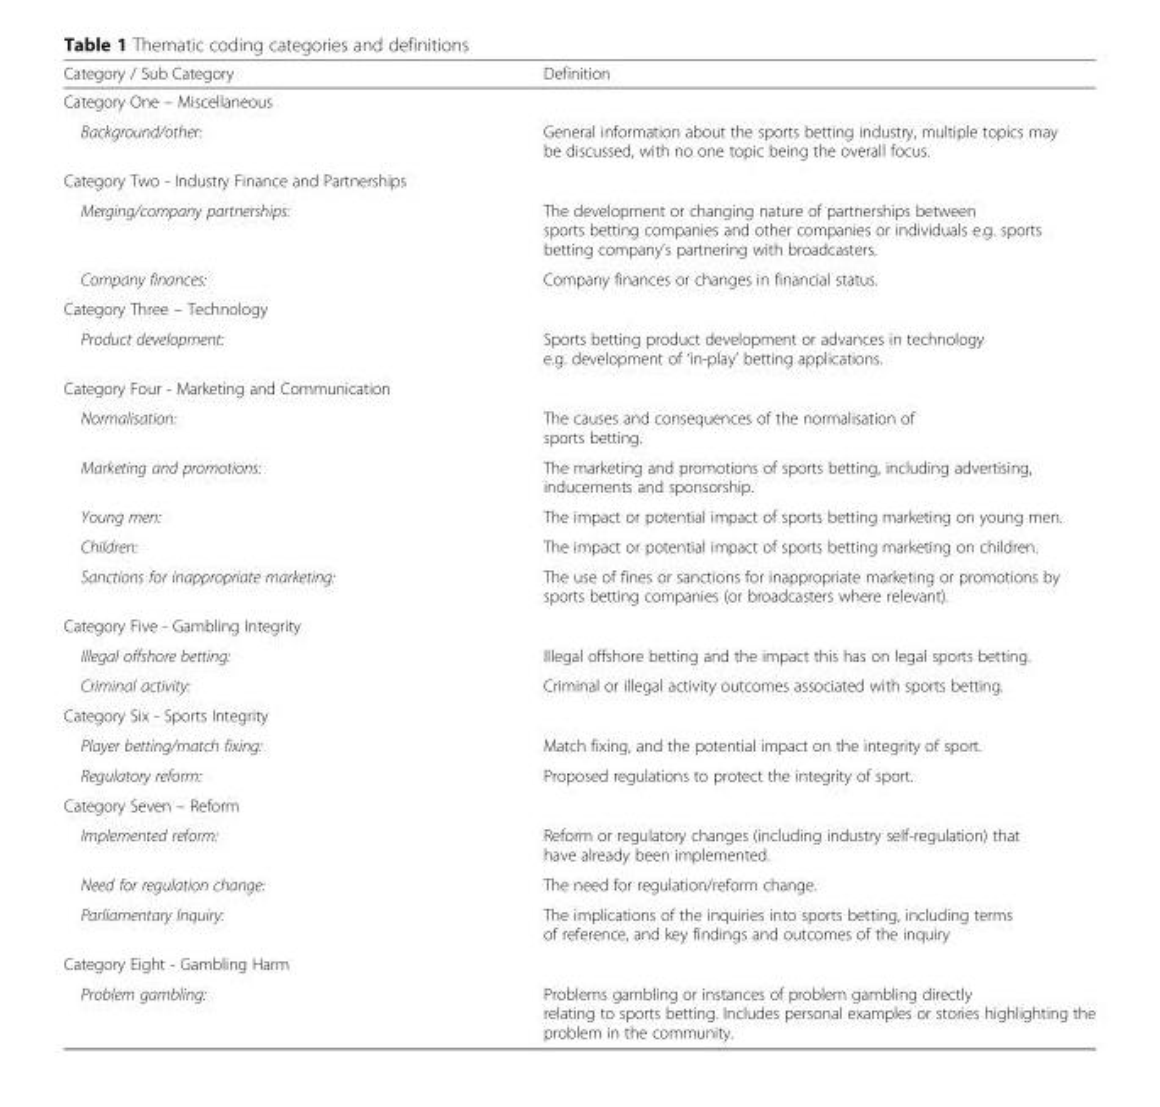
<table><thead><tr><td>Category / Sub Category</td><td>Definition</td></tr></thead><tbody><tr><td colspan="2">Category One – Miscellaneous</td></tr><tr><td>Background/other:</td><td>General information about the sports betting industry, multiple topics may be discussed, with no one topic being the overall focus.</td></tr><tr><td colspan="2">Category Two - Industry Finance and Partnerships</td></tr><tr><td>Merging/company partnerships:</td><td>The development or changing nature of partnerships between sports betting companies and other companies or individuals e.g. sports betting company’s partnering with broadcasters.</td></tr><tr><td>Company finances:</td><td>Company finances or changes in financial status.</td></tr><tr><td colspan="2">Category Three – Technology</td></tr><tr><td>Product development:</td><td>Sports betting product development or advances in technology e.g. development of ‘in-play’ betting applications.</td></tr><tr><td colspan="2">Category Four - Marketing and Communication</td></tr><tr><td>Normalisation:</td><td>The causes and consequences of the normalisation of sports betting.</td></tr><tr><td>Marketing and promotions:</td><td>The marketing and promotions of sports betting, including advertising, inducements and sponsorship.</td></tr><tr><td>Young men:</td><td>The impact or potential impact of sports betting marketing on young men.</td></tr><tr><td>Children:</td><td>The impact or potential impact of sports betting marketing on children.</td></tr><tr><td>Sanctions for inappropriate marketing:</td><td>The use of fines or sanctions for inappropriate marketing or promotions by sports betting companies (or broadcasters where relevant).</td></tr><tr><td colspan="2">Category Five - Gambling Integrity</td></tr><tr><td>Illegal offshore betting:</td><td>Illegal offshore betting and the impact this has on legal sports betting.</td></tr><tr><td>Criminal activity:</td><td>Criminal or illegal activity outcomes associated with sports betting.</td></tr><tr><td colspan="2">Category Six - Sports Integrity</td></tr><tr><td>Player betting/match fixing:</td><td>Match fixing, and the potential impact on the integrity of sport.</td></tr><tr><td>Regulatory reform:</td><td>Proposed regulations to protect the integrity of sport.</td></tr><tr><td colspan="2">Category Seven – Reform</td></tr><tr><td>Implemented reform:</td><td>Reform or regulatory changes (including industry self-regulation) that have already been implemented.</td></tr><tr><td>Need for regulation change:</td><td>The need for regulation/reform change.</td></tr><tr><td>Parliamentary Inquiry:</td><td>The implications of the inquiries into sports betting, including terms of reference, and key findings and outcomes of the inquiry</td></tr><tr><td colspan="2">Category Eight - Gambling Harm</td></tr><tr><td>Problem gambling:</td><td>Problems gambling or instances of problem gambling directly relating to sports betting. Includes personal examples or stories highlighting the problem in the community.</td></tr></tbody></table>